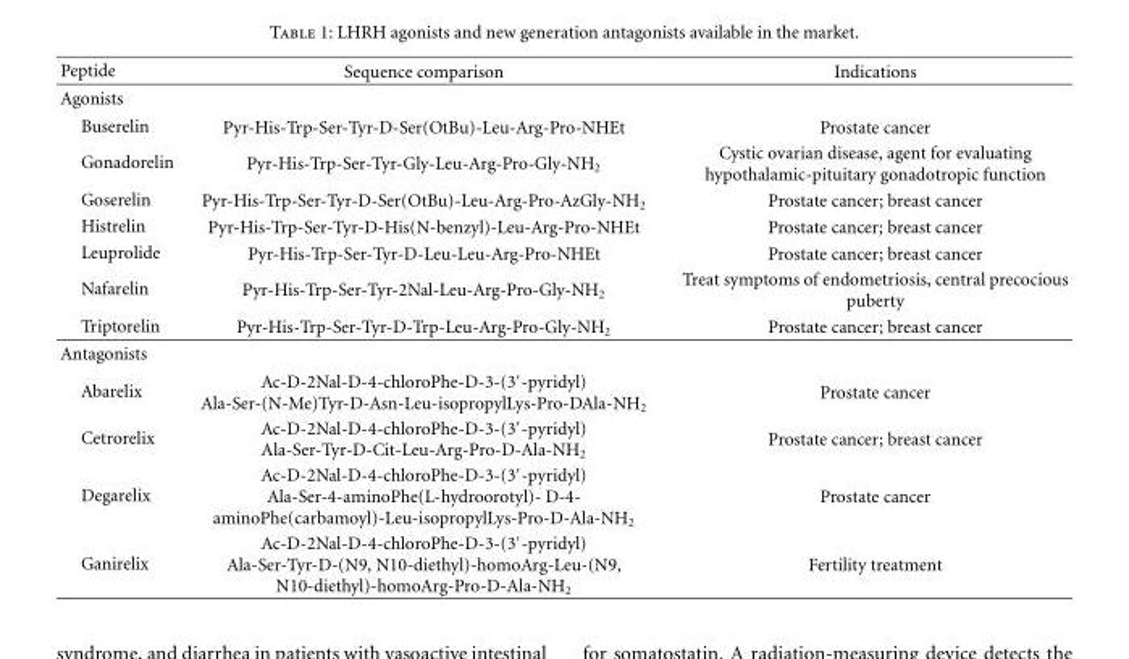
<table><thead><tr><td>Peptide</td><td>Sequence comparison</td><td>Indications</td></tr></thead><tbody><tr><td colspan="3">Agonists</td></tr><tr><td>Buserelin</td><td>Pyr-His-Trp-Ser-Tyr-D-Ser(OtBu)-Leu-Arg-Pro-NHEt</td><td>Prostate cancer</td></tr><tr><td>Gonadorelin</td><td>Pyr-His-Trp-Ser-Tyr-Gly-Leu-Arg-Pro-Gly-NH<sub>2</sub></td><td>Cystic ovarian disease, agent for evaluating hypothalamic-pituitary gonadotropic function</td></tr><tr><td>Goserelin</td><td>Pyr-His-Trp-Ser-Tyr-D-Ser(OtBu)-Leu-Arg-Pro-AzGly-NH<sub>2</sub></td><td>Prostate cancer; breast cancer</td></tr><tr><td>Histrelin</td><td>Pyr-His-Trp-Ser-Tyr-D-His(N-benzyl)-Leu-Arg-Pro-NHEt</td><td>Prostate cancer; breast cancer</td></tr><tr><td>Leuprolide</td><td>Pyr-His-Trp-Ser-Tyr-D-Leu-Leu-Arg-Pro-NHEt</td><td>Prostate cancer; breast cancer</td></tr><tr><td>Nafarelin</td><td>Pyr-His-Trp-Ser-Tyr-2Nal-Leu-Arg-Pro-Gly-NH<sub>2</sub></td><td>Treat symptoms of endometriosis, central precocious puberty</td></tr><tr><td>Triptorelin</td><td>Pyr-His-Trp-Ser-Tyr-D-Trp-Leu-Arg-Pro-Gly-NH<sub>2</sub></td><td>Prostate cancer; breast cancer</td></tr><tr><td colspan="3">Antagonists</td></tr><tr><td>Abarelix</td><td>Ac-D-2Nal-D-4-chloroPhe-D-3-(3′-pyridyl) Ala-Ser-(N-Me)Tyr-D-Asn-Leu-isopropylLys-Pro-DAla-NH<sub>2</sub></td><td>Prostate cancer</td></tr><tr><td>Cetrorelix</td><td>Ac-D-2Nal-D-4-chloroPhe-D-3-(3′-pyridyl) Ala-Ser-Tyr-D-Cit-Leu-Arg-Pro-D-Ala-NH<sub>2</sub></td><td>Prostate cancer; breast cancer</td></tr><tr><td>Degarelix</td><td>Ac-D-2Nal-D-4-chloroPhe-D-3-(3′-pyridyl) Ala-Ser-4-aminoPhe(L-hydroorotyl)- D-4- aminoPhe(carbamoyl)-Leu-isopropylLys-Pro-D-Ala-NH<sub>2</sub></td><td>Prostate cancer</td></tr><tr><td>Ganirelix</td><td>Ac-D-2Nal-D-4-chloroPhe-D-3-(3′-pyridyl) Ala-Ser-Tyr-D-(N9, N10-diethyl)-homoArg-Leu-(N9, N10-diethyl)-homoArg-Pro-D-Ala-NH<sub>2</sub></td><td>Fertility treatment</td></tr></tbody></table>